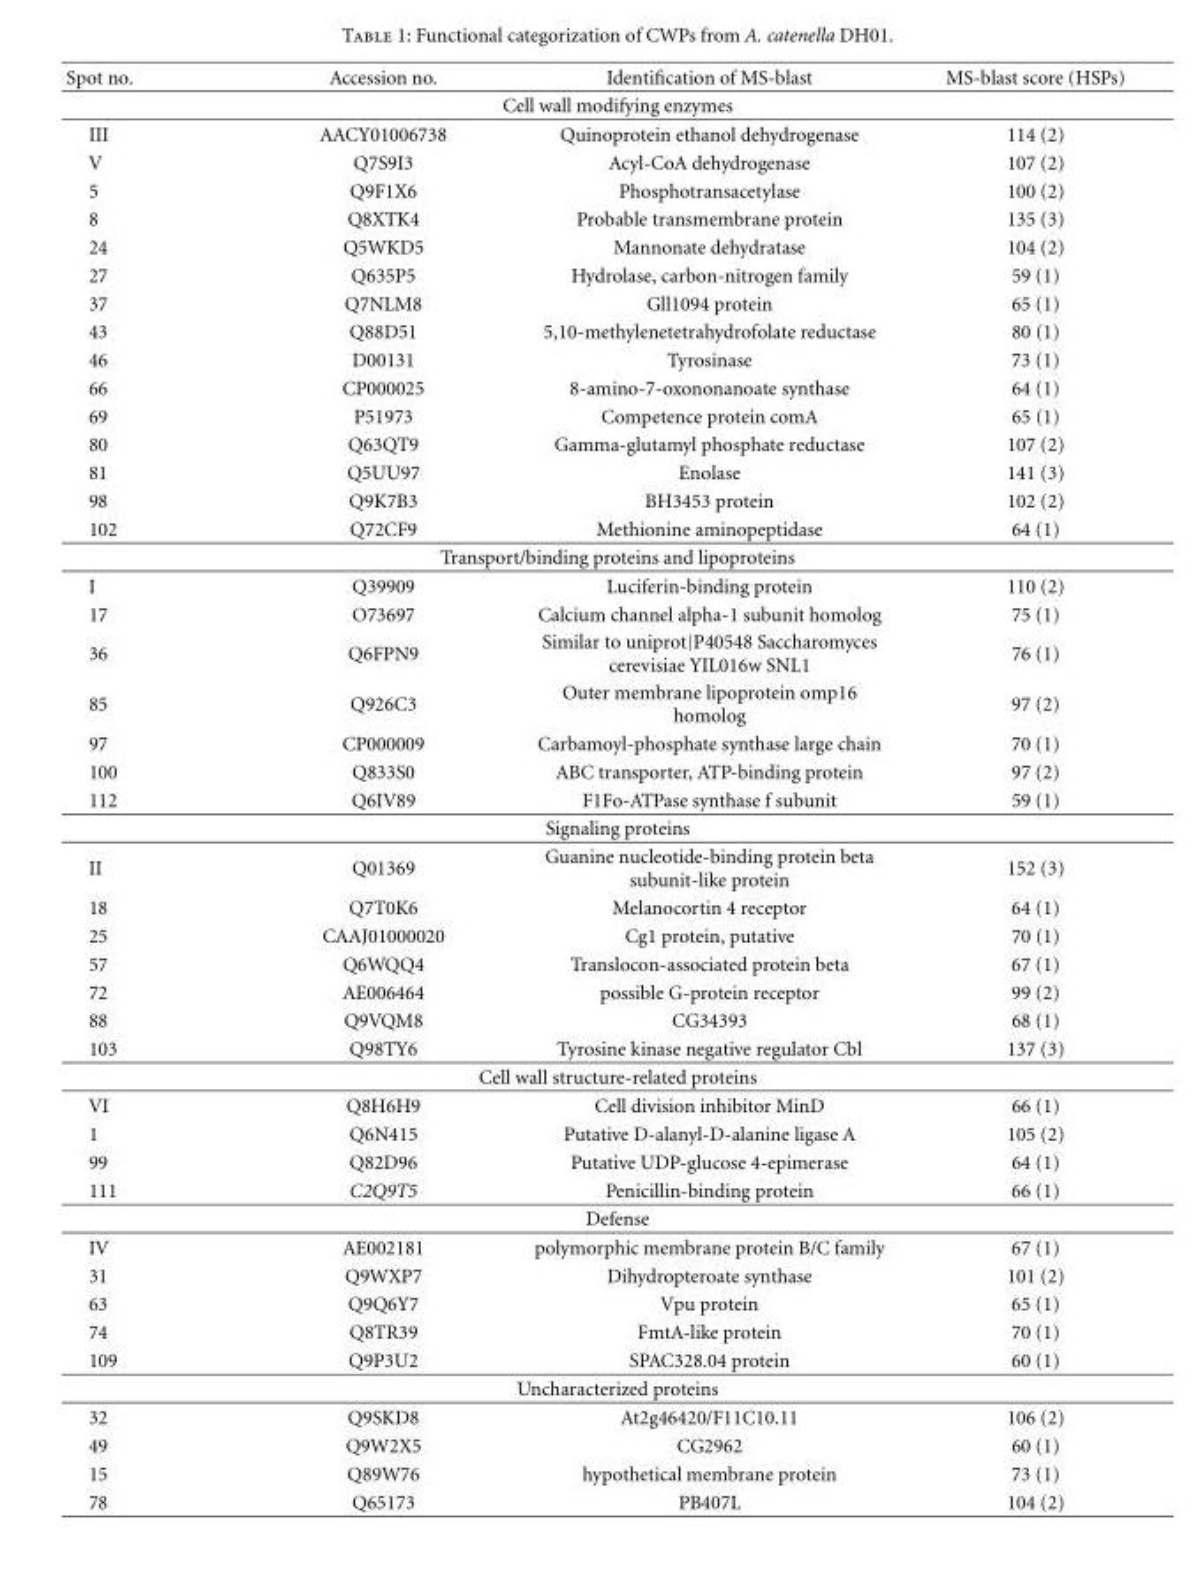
<table><thead><tr><td>Spot no.</td><td>Accession no.</td><td>Identification of MS-blast</td><td>MS-blast score (HSPs)</td></tr></thead><tbody><tr><td colspan="4">Cell wall modifying enzymes</td></tr><tr><td>III</td><td>AACY01006738</td><td>Quinoprotein ethanol dehydrogenase</td><td>114 (2)</td></tr><tr><td>V</td><td>Q7S9I3</td><td>Acyl-CoA dehydrogenase</td><td>107 (2)</td></tr><tr><td>5</td><td>Q9F1X6</td><td>Phosphotransacetylase</td><td>100 (2)</td></tr><tr><td>8</td><td>Q8XTK4</td><td>Probable transmembrane protein</td><td>135 (3)</td></tr><tr><td>24</td><td>Q5WKD5</td><td>Mannonate dehydratase</td><td>104 (2)</td></tr><tr><td>27</td><td>Q635P5</td><td>Hydrolase, carbon-nitrogen family</td><td>59 (1)</td></tr><tr><td>37</td><td>Q7NLM8</td><td>Gll1094 protein</td><td>65 (1)</td></tr><tr><td>43</td><td>Q88D51</td><td>5,10-methylenetetrahydrofolate reductase</td><td>80 (1)</td></tr><tr><td>46</td><td>D00131</td><td>Tyrosinase</td><td>73 (1)</td></tr><tr><td>66</td><td>CP000025</td><td>8-amino-7-oxononanoate synthase</td><td>64 (1)</td></tr><tr><td>69</td><td>P51973</td><td>Competence protein comA</td><td>65 (1)</td></tr><tr><td>80</td><td>Q63QT9</td><td>Gamma-glutamyl phosphate reductase</td><td>107 (2)</td></tr><tr><td>81</td><td>Q5UU97</td><td>Enolase</td><td>141 (3)</td></tr><tr><td>98</td><td>Q9K7B3</td><td>BH3453 protein</td><td>102 (2)</td></tr><tr><td>102</td><td>Q72CF9</td><td>Methionine aminopeptidase</td><td>64 (1)</td></tr><tr><td colspan="4">Transport/binding proteins and lipoproteins</td></tr><tr><td>I</td><td>Q39909</td><td>Luciferin-binding protein</td><td>110 (2)</td></tr><tr><td>17</td><td>O73697</td><td>Calcium channel alpha-1 subunit homolog</td><td>75 (1)</td></tr><tr><td>36</td><td>Q6FPN9</td><td>Similar to uniprot|P40548 Saccharomyces cerevisiae YIL016w SNL1</td><td>76 (1)</td></tr><tr><td>85</td><td>Q926C3</td><td>Outer membrane lipoprotein omp16 homolog</td><td>97 (2)</td></tr><tr><td>97</td><td>CP000009</td><td>Carbamoyl-phosphate synthase large chain</td><td>70 (1)</td></tr><tr><td>100</td><td>Q833S0</td><td>ABC transporter, ATP-binding protein</td><td>97 (2)</td></tr><tr><td>112</td><td>Q6IV89</td><td>F1Fo-ATPase synthase f subunit</td><td>59 (1)</td></tr><tr><td colspan="4">Signaling proteins</td></tr><tr><td>II</td><td>Q01369</td><td>Guanine nucleotide-binding protein beta subunit-like protein</td><td>152 (3)</td></tr><tr><td>18</td><td>Q7T0K6</td><td>Melanocortin 4 receptor</td><td>64 (1)</td></tr><tr><td>25</td><td>CAAJ01000020</td><td>Cg1 protein, putative</td><td>70 (1)</td></tr><tr><td>57</td><td>Q6WQQ4</td><td>Translocon-associated protein beta</td><td>67 (1)</td></tr><tr><td>72</td><td>AE006464</td><td>possible G-protein receptor</td><td>99 (2)</td></tr><tr><td>88</td><td>Q9VQM8</td><td>CG34393</td><td>68 (1)</td></tr><tr><td>103</td><td>Q98TY6</td><td>Tyrosine kinase negative regulator Cbl</td><td>137 (3)</td></tr><tr><td colspan="4">Cell wall structure-related proteins</td></tr><tr><td>VI</td><td>Q8H6H9</td><td>Cell division inhibitor MinD</td><td>66 (1)</td></tr><tr><td>1</td><td>Q6N415</td><td>Putative D-alanyl-D-alanine ligase A</td><td>105 (2)</td></tr><tr><td>99</td><td>Q82D96</td><td>Putative UDP-glucose 4-epimerase</td><td>64 (1)</td></tr><tr><td>111</td><td>C2Q9T5</td><td>Penicillin-binding protein</td><td>66 (1)</td></tr><tr><td colspan="4">Defense</td></tr><tr><td>IV</td><td>AE002181</td><td>polymorphic membrane protein B/C family</td><td>67 (1)</td></tr><tr><td>31</td><td>Q9WXP7</td><td>Dihydropteroate synthase</td><td>101 (2)</td></tr><tr><td>63</td><td>Q9Q6Y7</td><td>Vpu protein</td><td>65 (1)</td></tr><tr><td>74</td><td>Q8TR39</td><td>FmtA-like protein</td><td>70 (1)</td></tr><tr><td>109</td><td>Q9P3U2</td><td>SPAC328.04 protein</td><td>60 (1)</td></tr><tr><td colspan="4">Uncharacterized proteins</td></tr><tr><td>32</td><td>Q9SKD8</td><td>At2g46420/F11C10.11</td><td>106 (2)</td></tr><tr><td>49</td><td>Q9W2X5</td><td>CG2962</td><td>60 (1)</td></tr><tr><td>15</td><td>Q89W76</td><td>hypothetical membrane protein</td><td>73 (1)</td></tr><tr><td>78</td><td>Q65173</td><td>PB407L</td><td>104 (2)</td></tr></tbody></table>